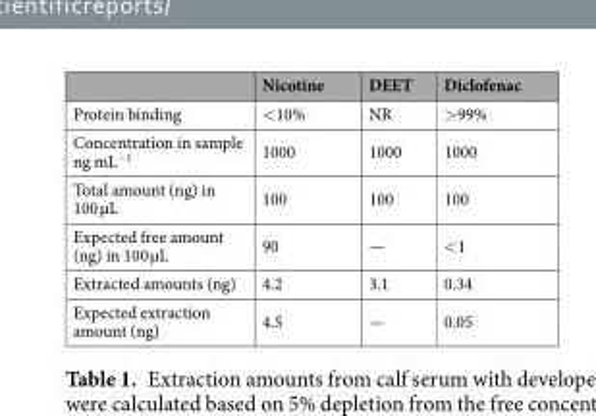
<table><thead><tr><td></td><td>Nicotine</td><td>DEET</td><td>Diclofenac</td></tr></thead><tbody><tr><td>Protein binding</td><td>&lt;10%</td><td>NR</td><td>&gt;99%</td></tr><tr><td>Concentration in sample ng mL<sup>−1</sup></td><td>1000</td><td>1000</td><td>1000</td></tr><tr><td>Total amount (ng) in 100 µL</td><td>100</td><td>100</td><td>100</td></tr><tr><td>Expected free amount (ng) in 100 µL</td><td>90</td><td>—</td><td>&lt;1</td></tr><tr><td>Extracted amounts (ng)</td><td>4.2</td><td>3.1</td><td>0.34</td></tr><tr><td>Expected extraction amount (ng)</td><td>4.5</td><td>—</td><td>0.05</td></tr></tbody></table>